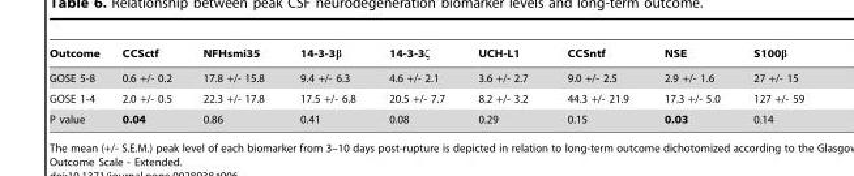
<table><thead><tr><td>Outcome</td><td>CCSctf</td><td>NFHsmi35</td><td>14-3-3β</td><td>14-3-3ζ</td><td>UCH-L1</td><td>CCSntf</td><td>NSE</td><td>S100β</td></tr></thead><tbody><tr><td>GOSE 5-8</td><td>0.6 +/- 0.2</td><td>17.8 +/- 15.8</td><td>9.4 +/- 6.3</td><td>4.6 +/- 2.1</td><td>3.6 +/- 2.7</td><td>9.0 +/- 2.5</td><td>2.9 +/- 1.6</td><td>27 +/- 15</td></tr><tr><td>GOSE 1-4</td><td>2.0 +/- 0.5</td><td>22.3 +/- 17.8</td><td>17.5 +/- 6.8</td><td>20.5 +/- 7.7</td><td>8.2 +/- 3.2</td><td>44.3 +/- 21.9</td><td>17.3 +/- 5.0</td><td>127 +/- 59</td></tr><tr><td>P value</td><td>0.04</td><td>0.86</td><td>0.41</td><td>0.08</td><td>0.29</td><td>0.15</td><td>0.03</td><td>0.14</td></tr></tbody></table>